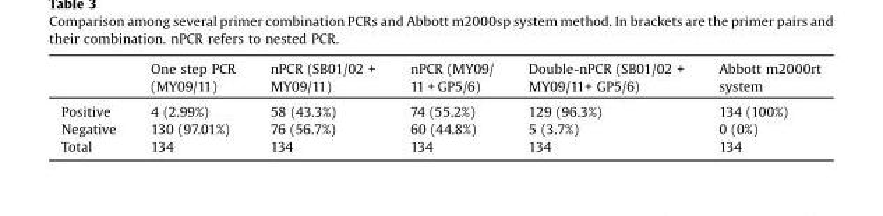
<table><thead><tr><td></td><td>One step PCR (MY09/11)</td><td>nPCR (SB01/02 + MY09/11)</td><td>nPCR (MY09/ 11 + GP5/6)</td><td>Double-nPCR (SB01/02 + MY09/11+ GP5/6)</td><td>Abbott m2000rt system</td></tr></thead><tbody><tr><td>Positive</td><td>4 (2.99%)</td><td>58 (43.3%)</td><td>74 (55.2%)</td><td>129 (96.3%)</td><td>134 (100%)</td></tr><tr><td>Negative</td><td>130 (97.01%)</td><td>76 (56.7%)</td><td>60 (44.8%)</td><td>5 (3.7%)</td><td>0 (0%)</td></tr><tr><td>Total</td><td>134</td><td>134</td><td>134</td><td>134</td><td>134</td></tr></tbody></table>